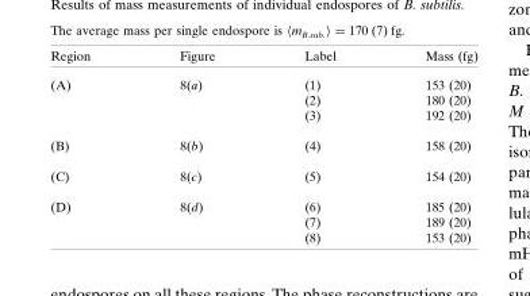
<table><thead><tr><td>Region</td><td>Figure</td><td>Label</td><td>Mass (fg)</td></tr></thead><tbody><tr><td rowspan="3">(A)</td><td rowspan="3">8(a)</td><td>(1)</td><td>153 (20)</td></tr><tr><td>(2)</td><td>180 (20)</td></tr><tr><td>(3)</td><td>192 (20)</td></tr><tr><td>(B)</td><td>8(b)</td><td>(4)</td><td>158 (20)</td></tr><tr><td>(C)</td><td>8(c)</td><td>(5)</td><td>154 (20)</td></tr><tr><td rowspan="3">(D)</td><td rowspan="3">8(d)</td><td>(6)</td><td>185 (20)</td></tr><tr><td>(7)</td><td>189 (20)</td></tr><tr><td>(8)</td><td>153 (20)</td></tr></tbody></table>